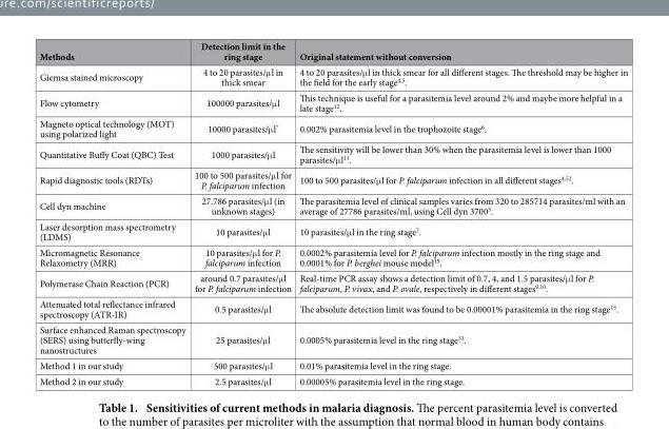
<table><thead><tr><td>Methods</td><td>Detection limit in the ring stage</td><td>Original statement without conversion</td></tr></thead><tbody><tr><td>Giemsa stained microscopy</td><td>4 to 20 parasites/μ l in thick smear</td><td>4 to 20 parasites/μ l in thick smear for all different stages. The threshold may be higher in the field for the early stage<sup>4</sup>,<sup>5</sup>.</td></tr><tr><td>Flow cytometry</td><td>100000 parasites/μ l</td><td>This technique is useful for a parasitemia level around 2% and maybe more helpful in a late stage<sup>12</sup>.</td></tr><tr><td>Magneto optical technology (MOT) using polarized light</td><td>10000 parasites/μ l*</td><td>0.002% parasitemia level in the trophozoite stage<sup>6</sup>.</td></tr><tr><td>Quantitative Buffy Coat (QBC) Test</td><td>1000 parasites/μ l</td><td>The sensitivity will be lower than 30% when the parasitemia level is lower than 1000 parasites/μ l<sup>11</sup>.</td></tr><tr><td>Rapid diagnostic tools (RDTs)</td><td>100 to 500 parasites/μ l for P. falciparum infection</td><td>100 to 500 parasites/μ l for P. falciparum infection in all different stages<sup>4</sup>,<sup>52</sup>.</td></tr><tr><td>Cell dyn machine</td><td>27.786 parasites/μ l (in unknown stages)</td><td>The parasitemia level of clinical samples varies from 320 to 285714 parasites/ml with an average of 27786 parasites/ml, using Cell dyn 3700<sup>5</sup>.</td></tr><tr><td>Laser desorption mass spectrometry (LDMS)</td><td>10 parasites/μ l</td><td>10 parasites/μ l in the ring stage<sup>7</sup>.</td></tr><tr><td>Micromagnetic Resonance Relaxometry (MRR)</td><td>10 parasites/μ l for P. falciparum infection</td><td>0.0002% parasitemia level for P. falciparum infection mostly in the ring stage and 0.0001% for P. berghei mouse model<sup>19</sup>.</td></tr><tr><td>Polymerase Chain Reaction (PCR)</td><td>around 0.7 parasites/μ l for P. falciparum infection</td><td>Real-time PCR assay shows a detection limit of 0.7, 4, and 1.5 parasites/μ l for P. falciparum, P. vivax, and P. ovale, respectively in different stages<sup>9</sup>,<sup>10</sup>.</td></tr><tr><td>Attenuated total reflectance infrared spectroscopy (ATR-IR)</td><td>0.5 parasites/μ l</td><td>The absolute detection limit was found to be 0.00001% parasitemia in the ring stage<sup>15</sup>.</td></tr><tr><td>Surface enhanced Raman spectroscopy (SERS) using butterfly-wing nanostructures</td><td>25 parasites/μ l</td><td>0.0005% parasitemia level in the ring stage<sup>33</sup>.</td></tr><tr><td>Method 1 in our study</td><td>500 parasites/μ l</td><td>0.01% parasitemia level in the ring stage.</td></tr><tr><td>Method 2 in our study</td><td>2.5 parasites/μ l</td><td>0.00005% parasitemia level in the ring stage.</td></tr></tbody></table>